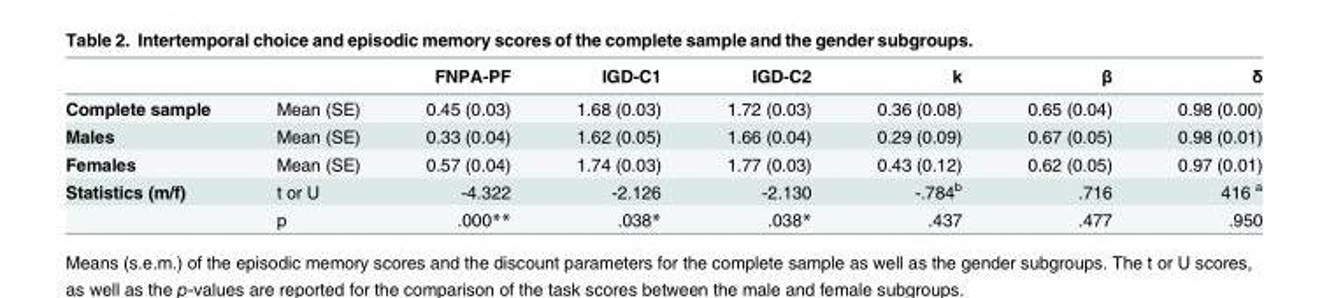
<table><thead><tr><td></td><td></td><td>FNPA-PF</td><td>IGD-C1</td><td>IGD-C2</td><td>k</td><td>β</td><td>δ</td></tr></thead><tbody><tr><td>Complete sample</td><td>Mean (SE)</td><td>0.45 (0.03)</td><td>1.68 (0.03)</td><td>1.72 (0.03)</td><td>0.36 (0.08)</td><td>0.65 (0.04)</td><td>0.98 (0.00)</td></tr><tr><td>Males</td><td>Mean (SE)</td><td>0.33 (0.04)</td><td>1.62 (0.05)</td><td>1.66 (0.04)</td><td>0.29 (0.09)</td><td>0.67 (0.05)</td><td>0.98 (0.01)</td></tr><tr><td>Females</td><td>Mean (SE)</td><td>0.57 (0.04)</td><td>1.74 (0.03)</td><td>1.77 (0.03)</td><td>0.43 (0.12)</td><td>0.62 (0.05)</td><td>0.97 (0.01)</td></tr><tr><td rowspan="2">Statistics (m/f)</td><td>t or U</td><td>-4.322</td><td>-2.126</td><td>-2.130</td><td>-.784<sup>b</sup></td><td>.716</td><td>416 <sup>a</sup></td></tr><tr><td>p</td><td>.000**</td><td>.038*</td><td>.038*</td><td>.437</td><td>.477</td><td>.950</td></tr></tbody></table>